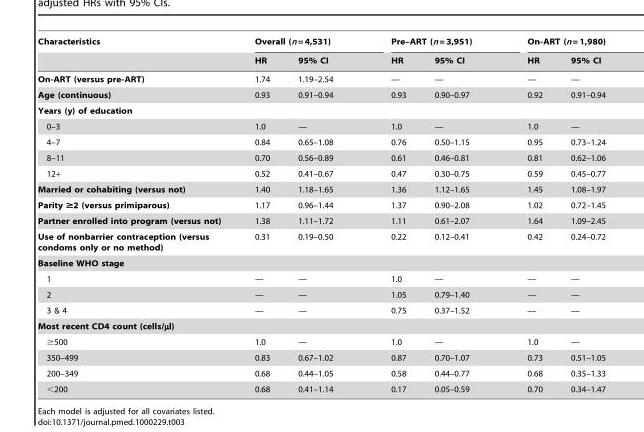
<table><thead><tr><td rowspan="2">Characteristics</td><td colspan="2">Overall (n = 4,531)</td><td colspan="2">Pre–ART (n = 3,951)</td><td colspan="2">On-ART (n = 1,980)</td></tr><tr><td>HR</td><td>95% CI</td><td>HR</td><td>95% CI</td><td>HR</td><td>95% CI</td></tr></thead><tbody><tr><td>On-ART (versus pre-ART)</td><td>1.74</td><td>1.19–2.54</td><td>—</td><td>—</td><td>—</td><td>—</td></tr><tr><td>Age (continuous)</td><td>0.93</td><td>0.91–0.94</td><td>0.93</td><td>0.90–0.97</td><td>0.92</td><td>0.91–0.94</td></tr><tr><td colspan="7">Years (y) of education</td></tr><tr><td>0–3</td><td>1.0</td><td>—</td><td>1.0</td><td>—</td><td>1.0</td><td>—</td></tr><tr><td>4–7</td><td>0.84</td><td>0.65–1.08</td><td>0.76</td><td>0.50–1.15</td><td>0.95</td><td>0.73–1.24</td></tr><tr><td>8–11</td><td>0.70</td><td>0.56–0.89</td><td>0.61</td><td>0.46–0.81</td><td>0.81</td><td>0.62–1.06</td></tr><tr><td>12+</td><td>0.52</td><td>0.41–0.67</td><td>0.47</td><td>0.30–0.75</td><td>0.59</td><td>0.45–0.77</td></tr><tr><td>Married or cohabiting (versus not)</td><td>1.40</td><td>1.18–1.65</td><td>1.36</td><td>1.12–1.65</td><td>1.45</td><td>1.08–1.97</td></tr><tr><td>Parity ≥2 (versus primiparous)</td><td>1.17</td><td>0.96–1.44</td><td>1.37</td><td>0.90–2.08</td><td>1.02</td><td>0.72–1.45</td></tr><tr><td>Partner enrolled into program (versus not)</td><td>1.38</td><td>1.11–1.72</td><td>1.11</td><td>0.61–2.07</td><td>1.64</td><td>1.09–2.45</td></tr><tr><td>Use of nonbarrier contraception (versus condoms only or no method)</td><td>0.31</td><td>0.19–0.50</td><td>0.22</td><td>0.12–0.41</td><td>0.42</td><td>0.24–0.72</td></tr><tr><td colspan="7">Baseline WHO stage</td></tr><tr><td>1</td><td>—</td><td>—</td><td>1.0</td><td>—</td><td>—</td><td>—</td></tr><tr><td>2</td><td>—</td><td>—</td><td>1.05</td><td>0.79–1.40</td><td>—</td><td>—</td></tr><tr><td>3 &amp; 4</td><td>—</td><td>—</td><td>0.75</td><td>0.37–1.52</td><td>—</td><td>—</td></tr><tr><td colspan="7">Most recent CD4 count (cells/µl)</td></tr><tr><td>≥500</td><td>1.0</td><td>—</td><td>1.0</td><td>—</td><td>1.0</td><td>—</td></tr><tr><td>350–499</td><td>0.83</td><td>0.67–1.02</td><td>0.87</td><td>0.70–1.07</td><td>0.73</td><td>0.51–1.05</td></tr><tr><td>200–349</td><td>0.68</td><td>0.44–1.05</td><td>0.58</td><td>0.44–0.77</td><td>0.68</td><td>0.35–1.33</td></tr><tr><td>&lt;200</td><td>0.68</td><td>0.41–1.14</td><td>0.17</td><td>0.05–0.59</td><td>0.70</td><td>0.34–1.47</td></tr></tbody></table>